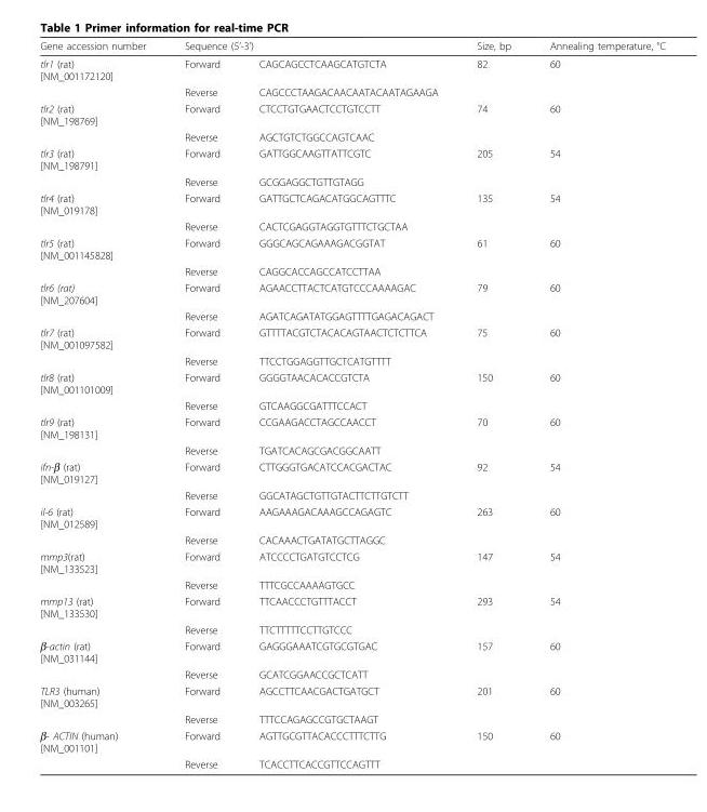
<table><thead><tr><td rowspan="2">Gene accession number tlr1 (rat) [NM_001172120]</td><td colspan="2">Sequence (5’-3’)</td><td rowspan="2">Size, bp 82</td><td rowspan="2">Annealing temperature, °C 60</td></tr><tr><td>Forward</td><td>CAGCAGCCTCAAGCATGTCTA</td></tr></thead><tbody><tr><td></td><td>Reverse</td><td>CAGCCCTAAGACAACAATACAATAGAAGA</td><td></td><td></td></tr><tr><td rowspan="2">tlr2 (rat) [NM_198769]</td><td>Forward</td><td>CTCCTGTGAACTCCTGTCCTT</td><td>74</td><td>60</td></tr><tr><td>Reverse</td><td>AGCTGTCTGGCCAGTCAAC</td><td></td><td></td></tr><tr><td rowspan="2">tlr3 (rat) [NM_198791]</td><td>Forward</td><td>GATTGGCAAGTTATTCGTC</td><td>205</td><td>54</td></tr><tr><td>Reverse</td><td>GCGGAGGCTGTTGTAGG</td><td></td><td></td></tr><tr><td rowspan="2">tlr4 (rat) [NM_019178]</td><td>Forward</td><td>GATTGCTCAGACATGGCAGTTTC</td><td>135</td><td>54</td></tr><tr><td>Reverse</td><td>CACTCGAGGTAGGTGTTTCTGCTAA</td><td></td><td></td></tr><tr><td rowspan="2">tlr5 (rat) [NM_001145828]</td><td>Forward</td><td>GGGCAGCAGAAAGACGGTAT</td><td>61</td><td>60</td></tr><tr><td>Reverse</td><td>CAGGCACCAGCCATCCTTAA</td><td></td><td></td></tr><tr><td rowspan="2">tlr6 (rat) [NM_207604]</td><td>Forward</td><td>AGAACCTTACTCATGTCCCAAAAGAC</td><td>79</td><td>60</td></tr><tr><td>Reverse</td><td>AGATCAGATATGGAGTTTTGAGACAGACT</td><td></td><td></td></tr><tr><td rowspan="2">tlr7 (rat) [NM_001097582]</td><td>Forward</td><td>GTTTTACGTCTACACAGTAACTCTCTTCA</td><td>75</td><td>60</td></tr><tr><td>Reverse</td><td>TTCCTGGAGGTTGCTCATGTTTT</td><td></td><td></td></tr><tr><td rowspan="2">tlr8 (rat) [NM_001101009]</td><td>Forward</td><td>GGGGTAACACACCGTCTA</td><td>150</td><td>60</td></tr><tr><td>Reverse</td><td>GTCAAGGCGATTTCCACT</td><td></td><td></td></tr><tr><td rowspan="2">tlr9 (rat) [NM_198131]</td><td>Forward</td><td>CCGAAGACCTAGCCAACCT</td><td>70</td><td>60</td></tr><tr><td>Reverse</td><td>TGATCACAGCGACGGCAATT</td><td></td><td></td></tr><tr><td rowspan="2">ifn-β (rat) [NM_019127]</td><td>Forward</td><td>CTTGGGTGACATCCACGACTAC</td><td>92</td><td>54</td></tr><tr><td>Reverse</td><td>GGCATAGCTGTTGTACTTCTTGTCTT</td><td></td><td></td></tr><tr><td rowspan="2">il-6 (rat) [NM_012589]</td><td>Forward</td><td>AAGAAAGACAAAGCCAGAGTC</td><td>263</td><td>60</td></tr><tr><td>Reverse</td><td>CACAAACTGATATGCTTAGGC</td><td></td><td></td></tr><tr><td rowspan="2">mmp3(rat) [NM_133523]</td><td>Forward</td><td>ATCCCCTGATGTCCTCG</td><td>147</td><td>54</td></tr><tr><td>Reverse</td><td>TTTCGCCAAAAGTGCC</td><td></td><td></td></tr><tr><td rowspan="2">mmp13 (rat) [NM_133530]</td><td>Forward</td><td>TTCAACCCTGTTTACCT</td><td>293</td><td>54</td></tr><tr><td>Reverse</td><td>TTCTTTTTCCTTGTCCC</td><td></td><td></td></tr><tr><td rowspan="2">β-actin (rat) [NM_031144]</td><td>Forward</td><td>GAGGGAAATCGTGCGTGAC</td><td>157</td><td>60</td></tr><tr><td>Reverse</td><td>GCATCGGAACCGCTCATT</td><td></td><td></td></tr><tr><td rowspan="2">TLR3 (human) [NM_003265]</td><td>Forward</td><td>AGCCTTCAACGACTGATGCT</td><td>201</td><td>60</td></tr><tr><td>Reverse</td><td>TTTCCAGAGCCGTGCTAAGT</td><td></td><td></td></tr><tr><td rowspan="2">β- ACTIN (human) [NM_001101]</td><td>Forward</td><td>AGTTGCGTTACACCCTTTCTTG</td><td>150</td><td>60</td></tr><tr><td>Reverse</td><td>TCACCTTCACCGTTCCAGTTT</td><td></td><td></td></tr></tbody></table>